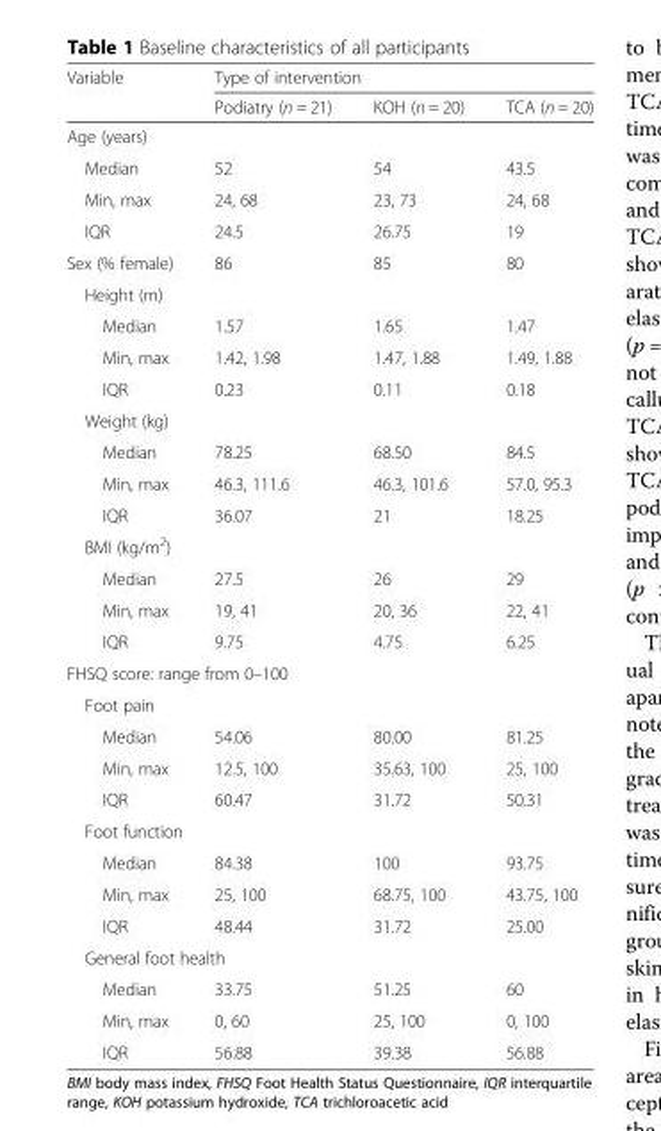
<table><thead><tr><td rowspan="2">Variable</td><td colspan="3">Type of intervention</td></tr><tr><td>Podiatry (n = 21)</td><td>KOH (n = 20)</td><td>TCA (n = 20)</td></tr></thead><tbody><tr><td colspan="4">Age (years)</td></tr><tr><td>Median</td><td>52</td><td>54</td><td>43.5</td></tr><tr><td>Min, max</td><td>24, 68</td><td>23, 73</td><td>24, 68</td></tr><tr><td>IQR</td><td>24.5</td><td>26.75</td><td>19</td></tr><tr><td>Sex (% female)</td><td>86</td><td>85</td><td>80</td></tr><tr><td colspan="4">Height (m)</td></tr><tr><td>Median</td><td>1.57</td><td>1.65</td><td>1.47</td></tr><tr><td>Min, max</td><td>1.42, 1.98</td><td>1.47, 1.88</td><td>1.49, 1.88</td></tr><tr><td>IQR</td><td>0.23</td><td>0.11</td><td>0.18</td></tr><tr><td colspan="4">Weight (kg)</td></tr><tr><td>Median</td><td>78.25</td><td>68.50</td><td>84.5</td></tr><tr><td>Min, max</td><td>46.3, 111.6</td><td>46.3, 101.6</td><td>57.0, 95.3</td></tr><tr><td>IQR</td><td>36.07</td><td>21</td><td>18.25</td></tr><tr><td colspan="4">BMI (kg/m<sup>2</sup>)</td></tr><tr><td>Median</td><td>27.5</td><td>26</td><td>29</td></tr><tr><td>Min, max</td><td>19, 41</td><td>20, 36</td><td>22, 41</td></tr><tr><td>IQR</td><td>9.75</td><td>4.75</td><td>6.25</td></tr><tr><td colspan="4">FHSQ score: range from 0–100</td></tr><tr><td colspan="4">Foot pain</td></tr><tr><td>Median</td><td>54.06</td><td>80.00</td><td>81.25</td></tr><tr><td>Min, max</td><td>12.5, 100</td><td>35.63, 100</td><td>25, 100</td></tr><tr><td>IQR</td><td>60.47</td><td>31.72</td><td>50.31</td></tr><tr><td colspan="4">Foot function</td></tr><tr><td>Median</td><td>84.38</td><td>100</td><td>93.75</td></tr><tr><td>Min, max</td><td>25, 100</td><td>68.75, 100</td><td>43.75, 100</td></tr><tr><td>IQR</td><td>48.44</td><td>31.72</td><td>25.00</td></tr><tr><td colspan="4">General foot health</td></tr><tr><td>Median</td><td>33.75</td><td>51.25</td><td>60</td></tr><tr><td>Min, max</td><td>0, 60</td><td>25, 100</td><td>0, 100</td></tr><tr><td>IQR</td><td>56.88</td><td>39.38</td><td>56.88</td></tr></tbody></table>